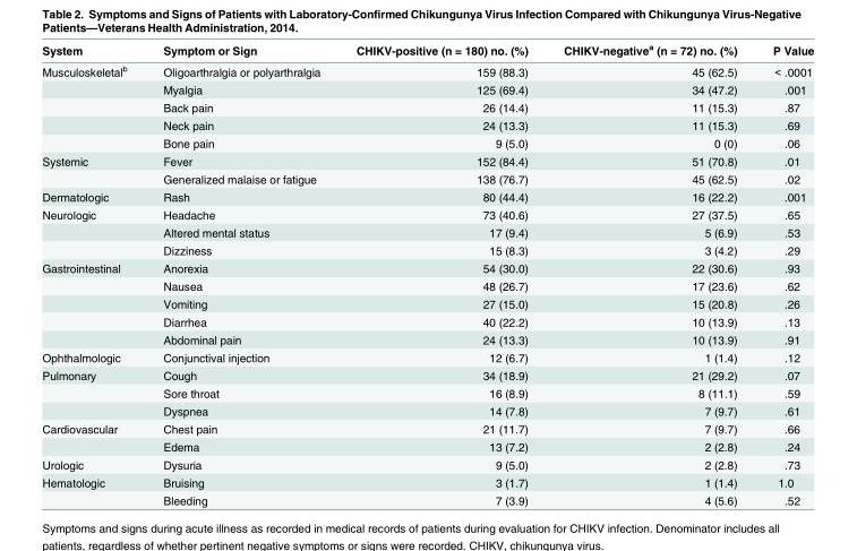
<table><thead><tr><td>System</td><td>Symptom or Sign</td><td>CHIKV-positive (n = 180) no. (%)</td><td>CHIKV-negative<sup>a</sup> (n = 72) no. (%)</td><td>P Value</td></tr></thead><tbody><tr><td rowspan="5">Musculoskeletal<sup>b</sup></td><td>Oligoarthralgia or polyarthralgia</td><td>159 (88.3)</td><td>45 (62.5)</td><td>&lt; .0001</td></tr><tr><td>Myalgia</td><td>125 (69.4)</td><td>34 (47.2)</td><td>.001</td></tr><tr><td>Back pain</td><td>26 (14.4)</td><td>11 (15.3)</td><td>.87</td></tr><tr><td>Neck pain</td><td>24 (13.3)</td><td>11 (15.3)</td><td>.69</td></tr><tr><td>Bone pain</td><td>9 (5.0)</td><td>0 (0)</td><td>.06</td></tr><tr><td rowspan="2">Systemic</td><td>Fever</td><td>152 (84.4)</td><td>51 (70.8)</td><td>.01</td></tr><tr><td>Generalized malaise or fatigue</td><td>138 (76.7)</td><td>45 (62.5)</td><td>.02</td></tr><tr><td>Dermatologic</td><td>Rash</td><td>80 (44.4)</td><td>16 (22.2)</td><td>.001</td></tr><tr><td rowspan="3">Neurologic</td><td>Headache</td><td>73 (40.6)</td><td>27 (37.5)</td><td>.65</td></tr><tr><td>Altered mental status</td><td>17 (9.4)</td><td>5 (6.9)</td><td>.53</td></tr><tr><td>Dizziness</td><td>15 (8.3)</td><td>3 (4.2)</td><td>.29</td></tr><tr><td rowspan="5">Gastrointestinal</td><td>Anorexia</td><td>54 (30.0)</td><td>22 (30.6)</td><td>.93</td></tr><tr><td>Nausea</td><td>48 (26.7)</td><td>17 (23.6)</td><td>.62</td></tr><tr><td>Vomiting</td><td>27 (15.0)</td><td>15 (20.8)</td><td>.26</td></tr><tr><td>Diarrhea</td><td>40 (22.2)</td><td>10 (13.9)</td><td>.13</td></tr><tr><td>Abdominal pain</td><td>24 (13.3)</td><td>10 (13.9)</td><td>.91</td></tr><tr><td>Ophthalmologic</td><td>Conjunctival injection</td><td>12 (6.7)</td><td>1 (1.4)</td><td>.12</td></tr><tr><td rowspan="3">Pulmonary</td><td>Cough</td><td>34 (18.9)</td><td>21 (29.2)</td><td>.07</td></tr><tr><td>Sore throat</td><td>16 (8.9)</td><td>8 (11.1)</td><td>.59</td></tr><tr><td>Dyspnea</td><td>14 (7.8)</td><td>7 (9.7)</td><td>.61</td></tr><tr><td rowspan="2">Cardiovascular</td><td>Chest pain</td><td>21 (11.7)</td><td>7 (9.7)</td><td>.66</td></tr><tr><td>Edema</td><td>13 (7.2)</td><td>2 (2.8)</td><td>.24</td></tr><tr><td>Urologic</td><td>Dysuria</td><td>9 (5.0)</td><td>2 (2.8)</td><td>.73</td></tr><tr><td rowspan="2">Hematologic</td><td>Bruising</td><td>3 (1.7)</td><td>1 (1.4)</td><td>1.0</td></tr><tr><td>Bleeding</td><td>7 (3.9)</td><td>4 (5.6)</td><td>.52</td></tr></tbody></table>